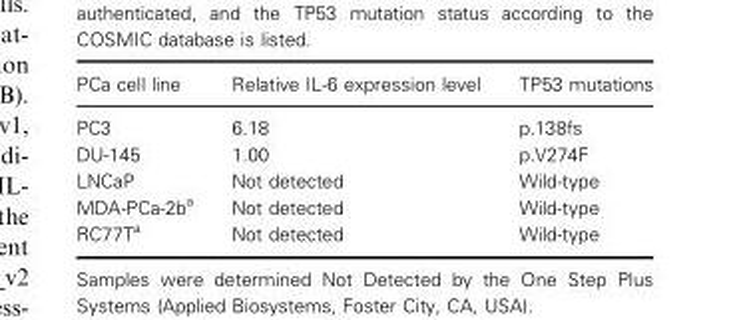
<table><thead><tr><td>PCa cell line</td><td>Relative IL-6 expression level</td><td>TP53 mutations</td></tr></thead><tbody><tr><td>PC3</td><td>6.18</td><td>p.138fs</td></tr><tr><td>DU-145</td><td>1.00</td><td>p.V274F</td></tr><tr><td>LNCaP</td><td>Not detected</td><td>Wild-type</td></tr><tr><td>MDA-PCa-2b<sup>a</sup></td><td>Not detected</td><td>Wild-type</td></tr><tr><td>RC77T<sup>a</sup></td><td>Not detected</td><td>Wild-type</td></tr></tbody></table>